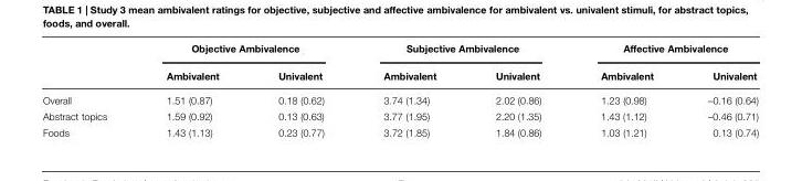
<table><thead><tr><td rowspan="2"></td><td colspan="2">Objective Ambivalence</td><td colspan="2">Subjective Ambivalence</td><td colspan="2">Affective Ambivalence</td></tr><tr><td>Ambivalent</td><td>Univalent</td><td>Ambivalent</td><td>Univalent</td><td>Ambivalent</td><td>Univalent</td></tr></thead><tbody><tr><td>Overall</td><td>1.51 (0.87)</td><td>0.18 (0.62)</td><td>3.74 (1.34)</td><td>2.02 (0.86)</td><td>1.23 (0.98)</td><td>–0.16 (0.64)</td></tr><tr><td>Abstract topics</td><td>1.59 (0.92)</td><td>0.13 (0.63)</td><td>3.77 (1.95)</td><td>2.20 (1.35)</td><td>1.43 (1.12)</td><td>–0.46 (0.71)</td></tr><tr><td>Foods</td><td>1.43 (1.13)</td><td>0.23 (0.77)</td><td>3.72 (1.85)</td><td>1.84 (0.86)</td><td>1.03 (1.21)</td><td>0.13 (0.74)</td></tr></tbody></table>